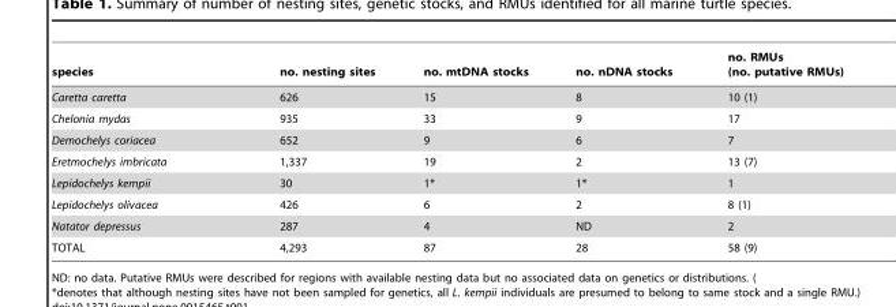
<table><thead><tr><td>species</td><td>no. nesting sites</td><td>no. mtDNA stocks</td><td>no. nDNA stocks</td><td>no. RMUs (no. putative RMUs)</td></tr></thead><tbody><tr><td>Caretta caretta</td><td>626</td><td>15</td><td>8</td><td>10 (1)</td></tr><tr><td>Chelonia mydas</td><td>935</td><td>33</td><td>9</td><td>17</td></tr><tr><td>Demochelys coriacea</td><td>652</td><td>9</td><td>6</td><td>7</td></tr><tr><td>Eretmochelys imbricata</td><td>1,337</td><td>19</td><td>2</td><td>13 (7)</td></tr><tr><td>Lepidochelys kempii</td><td>30</td><td>1*</td><td>1*</td><td>1</td></tr><tr><td>Lepidochelys olivacea</td><td>426</td><td>6</td><td>2</td><td>8 (1)</td></tr><tr><td>Natator depressus</td><td>287</td><td>4</td><td>ND</td><td>2</td></tr><tr><td>TOTAL</td><td>4,293</td><td>87</td><td>28</td><td>58 (9)</td></tr></tbody></table>